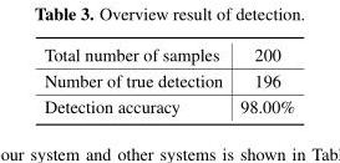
<table><tbody><tr><td>Total number of samples</td><td>200</td></tr><tr><td>Number of true detection</td><td>196</td></tr><tr><td>Detection accuracy</td><td>98.00%</td></tr></tbody></table>